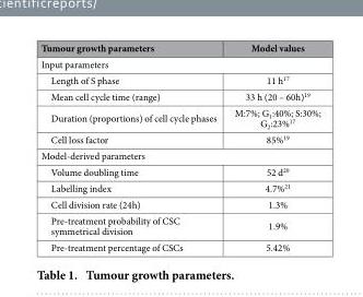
<table><thead><tr><td>Tumour growth parameters</td><td>Model values</td></tr></thead><tbody><tr><td colspan="2">Input parameters</td></tr><tr><td>Length of S phase</td><td>11 h<sup>17</sup></td></tr><tr><td>Mean cell cycle time (range)</td><td>33 h (20 – 60h)<sup>19</sup></td></tr><tr><td>Duration (proportions) of cell cycle phases</td><td>M:7%; G<sub>1</sub>:40%; S:30%; G<sub>2</sub>:23%<sup>17</sup></td></tr><tr><td>Cell loss factor</td><td>85%<sup>19</sup></td></tr><tr><td colspan="2">Model-derived parameters</td></tr><tr><td>Volume doubling time</td><td>52 d<sup>20</sup></td></tr><tr><td>Labelling index</td><td>4.7%<sup>21</sup></td></tr><tr><td>Cell division rate (24h)</td><td>1.3%</td></tr><tr><td>Pre-treatment probability of CSC symmetrical division</td><td>1.9%</td></tr><tr><td>Pre-treatment percentage of CSCs</td><td>5.42%</td></tr></tbody></table>